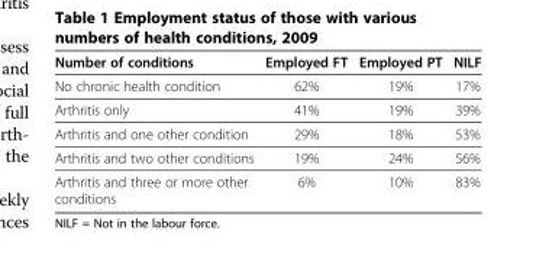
<table><thead><tr><td>Number of conditions</td><td>Employed FT</td><td>Employed PT</td><td>NILF</td></tr></thead><tbody><tr><td>No chronic health condition</td><td>62%</td><td>19%</td><td>17%</td></tr><tr><td>Arthritis only</td><td>41%</td><td>19%</td><td>39%</td></tr><tr><td>Arthritis and one other condition</td><td>29%</td><td>18%</td><td>53%</td></tr><tr><td>Arthritis and two other conditions</td><td>19%</td><td>24%</td><td>56%</td></tr><tr><td>Arthritis and three or more other conditions</td><td>6%</td><td>10%</td><td>83%</td></tr></tbody></table>